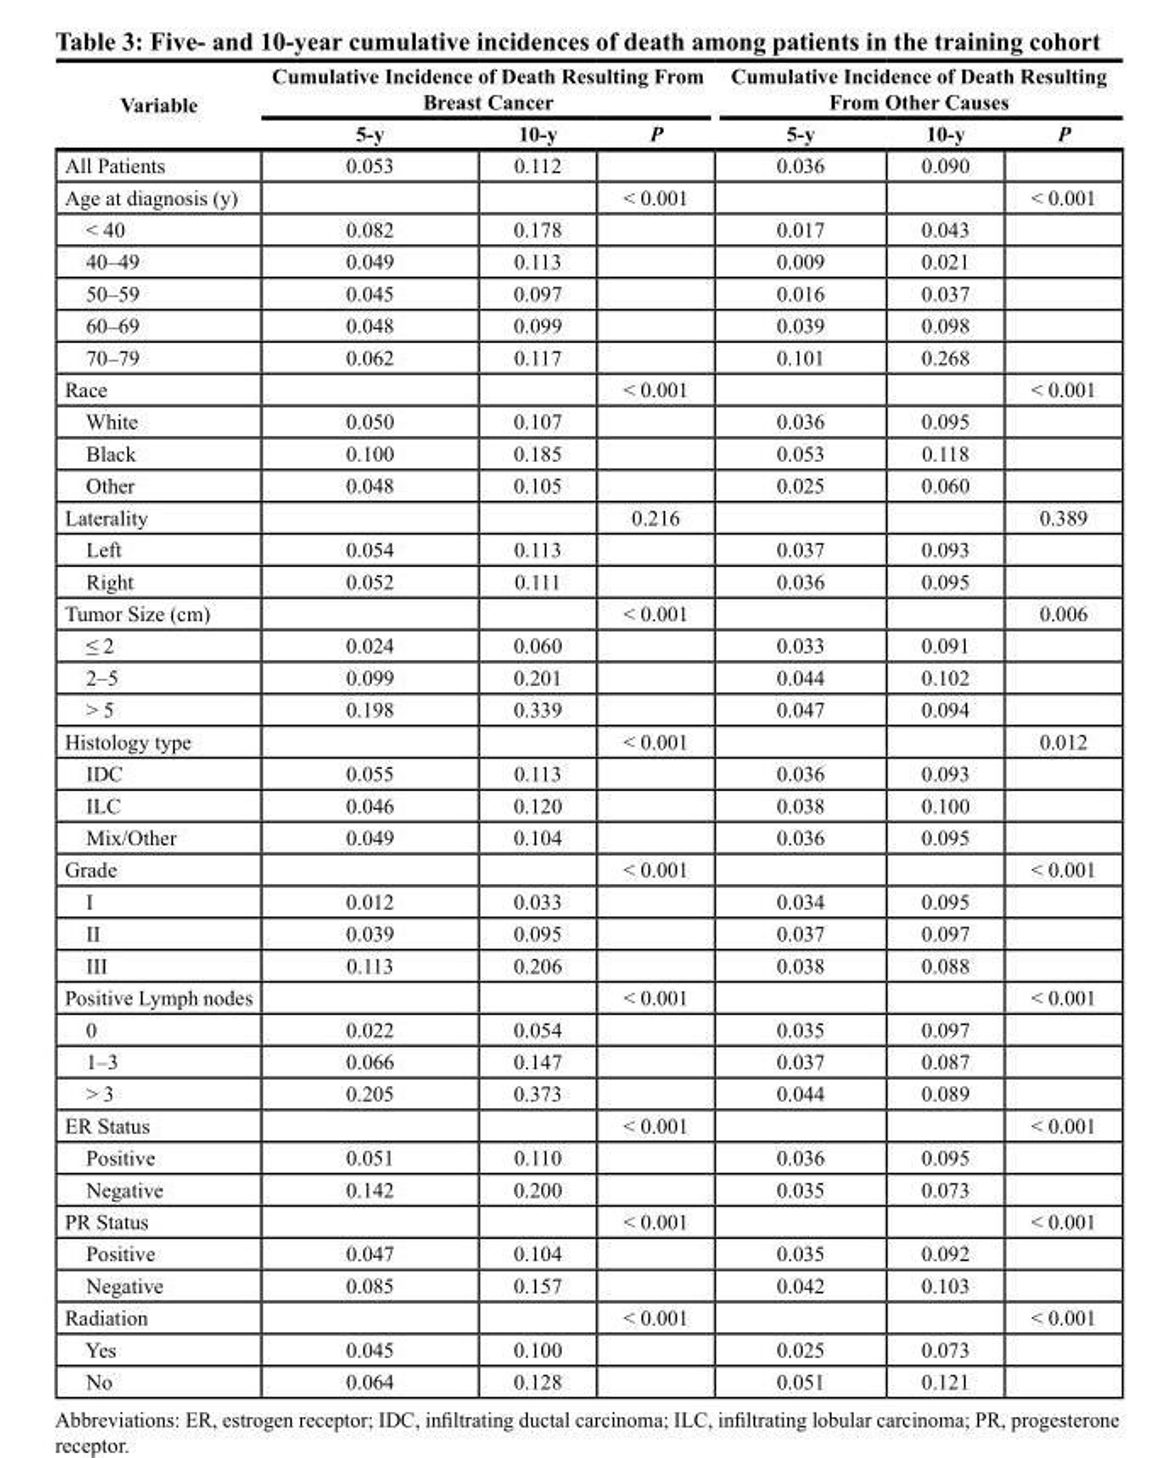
<table><thead><tr><td rowspan="2">Variable</td><td colspan="3">Cumulative Incidence of Death Resulting From Breast Cancer</td><td colspan="3">Cumulative Incidence of Death Resulting From Other Causes</td></tr><tr><td>5-y</td><td>10-y</td><td>P</td><td>5-y</td><td>10-y</td><td>P</td></tr></thead><tbody><tr><td>All Patients</td><td>0.053</td><td>0.112</td><td></td><td>0.036</td><td>0.090</td><td></td></tr><tr><td>Age at diagnosis (y)</td><td></td><td></td><td>&lt; 0.001</td><td></td><td></td><td>&lt; 0.001</td></tr><tr><td>&lt; 40</td><td>0.082</td><td>0.178</td><td></td><td>0.017</td><td>0.043</td><td></td></tr><tr><td>40–49</td><td>0.049</td><td>0.113</td><td></td><td>0.009</td><td>0.021</td><td></td></tr><tr><td>50–59</td><td>0.045</td><td>0.097</td><td></td><td>0.016</td><td>0.037</td><td></td></tr><tr><td>60–69</td><td>0.048</td><td>0.099</td><td></td><td>0.039</td><td>0.098</td><td></td></tr><tr><td>70–79</td><td>0.062</td><td>0.117</td><td></td><td>0.101</td><td>0.268</td><td></td></tr><tr><td>Race</td><td></td><td></td><td>&lt; 0.001</td><td></td><td></td><td>&lt; 0.001</td></tr><tr><td>White</td><td>0.050</td><td>0.107</td><td></td><td>0.036</td><td>0.095</td><td></td></tr><tr><td>Black</td><td>0.100</td><td>0.185</td><td></td><td>0.053</td><td>0.118</td><td></td></tr><tr><td>Other</td><td>0.048</td><td>0.105</td><td></td><td>0.025</td><td>0.060</td><td></td></tr><tr><td>Laterality</td><td></td><td></td><td>0.216</td><td></td><td></td><td>0.389</td></tr><tr><td>Left</td><td>0.054</td><td>0.113</td><td></td><td>0.037</td><td>0.093</td><td></td></tr><tr><td>Right</td><td>0.052</td><td>0.111</td><td></td><td>0.036</td><td>0.095</td><td></td></tr><tr><td>Tumor Size (cm)</td><td></td><td></td><td>&lt; 0.001</td><td></td><td></td><td>0.006</td></tr><tr><td>≤ 2</td><td>0.024</td><td>0.060</td><td></td><td>0.033</td><td>0.091</td><td></td></tr><tr><td>2–5</td><td>0.099</td><td>0.201</td><td></td><td>0.044</td><td>0.102</td><td></td></tr><tr><td>&gt; 5</td><td>0.198</td><td>0.339</td><td></td><td>0.047</td><td>0.094</td><td></td></tr><tr><td>Histology type</td><td></td><td></td><td>&lt; 0.001</td><td></td><td></td><td>0.012</td></tr><tr><td>IDC</td><td>0.055</td><td>0.113</td><td></td><td>0.036</td><td>0.093</td><td></td></tr><tr><td>ILC</td><td>0.046</td><td>0.120</td><td></td><td>0.038</td><td>0.100</td><td></td></tr><tr><td>Mix/Other</td><td>0.049</td><td>0.104</td><td></td><td>0.036</td><td>0.095</td><td></td></tr><tr><td>Grade</td><td></td><td></td><td>&lt; 0.001</td><td></td><td></td><td>&lt; 0.001</td></tr><tr><td>I</td><td>0.012</td><td>0.033</td><td></td><td>0.034</td><td>0.095</td><td></td></tr><tr><td>II</td><td>0.039</td><td>0.095</td><td></td><td>0.037</td><td>0.097</td><td></td></tr><tr><td>III</td><td>0.113</td><td>0.206</td><td></td><td>0.038</td><td>0.088</td><td></td></tr><tr><td>Positive Lymph nodes</td><td></td><td></td><td>&lt; 0.001</td><td></td><td></td><td>&lt; 0.001</td></tr><tr><td>0</td><td>0.022</td><td>0.054</td><td></td><td>0.035</td><td>0.097</td><td></td></tr><tr><td>1–3</td><td>0.066</td><td>0.147</td><td></td><td>0.037</td><td>0.087</td><td></td></tr><tr><td>&gt; 3</td><td>0.205</td><td>0.373</td><td></td><td>0.044</td><td>0.089</td><td></td></tr><tr><td>ER Status</td><td></td><td></td><td>&lt; 0.001</td><td></td><td></td><td>&lt; 0.001</td></tr><tr><td>Positive</td><td>0.051</td><td>0.110</td><td></td><td>0.036</td><td>0.095</td><td></td></tr><tr><td>Negative</td><td>0.142</td><td>0.200</td><td></td><td>0.035</td><td>0.073</td><td></td></tr><tr><td>PR Status</td><td></td><td></td><td>&lt; 0.001</td><td></td><td></td><td>&lt; 0.001</td></tr><tr><td>Positive</td><td>0.047</td><td>0.104</td><td></td><td>0.035</td><td>0.092</td><td></td></tr><tr><td>Negative</td><td>0.085</td><td>0.157</td><td></td><td>0.042</td><td>0.103</td><td></td></tr><tr><td>Radiation</td><td></td><td></td><td>&lt; 0.001</td><td></td><td></td><td>&lt; 0.001</td></tr><tr><td>Yes</td><td>0.045</td><td>0.100</td><td></td><td>0.025</td><td>0.073</td><td></td></tr><tr><td>No</td><td>0.064</td><td>0.128</td><td></td><td>0.051</td><td>0.121</td><td></td></tr></tbody></table>